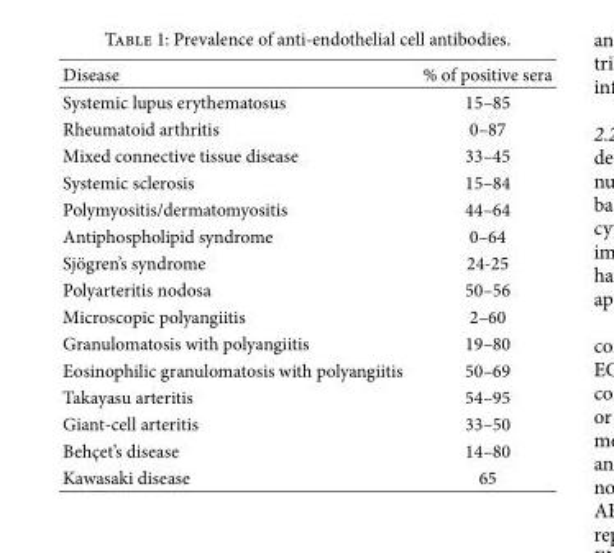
<table><thead><tr><td>Disease</td><td>% of positive sera</td></tr></thead><tbody><tr><td>Systemic lupus erythematosus</td><td>15–85</td></tr><tr><td>Rheumatoid arthritis</td><td>0–87</td></tr><tr><td>Mixed connective tissue disease</td><td>33–45</td></tr><tr><td>Systemic sclerosis</td><td>15–84</td></tr><tr><td>Polymyositis/dermatomyositis</td><td>44–64</td></tr><tr><td>Antiphospholipid syndrome</td><td>0–64</td></tr><tr><td>Sjögren’s syndrome</td><td>24-25</td></tr><tr><td>Polyarteritis nodosa</td><td>50–56</td></tr><tr><td>Microscopic polyangiitis</td><td>2–60</td></tr><tr><td>Granulomatosis with polyangiitis</td><td>19–80</td></tr><tr><td>Eosinophilic granulomatosis with polyangiitis</td><td>50–69</td></tr><tr><td>Takayasu arteritis</td><td>54–95</td></tr><tr><td>Giant-cell arteritis</td><td>33–50</td></tr><tr><td>Behçet’s disease</td><td>14–80</td></tr><tr><td>Kawasaki disease</td><td>65</td></tr></tbody></table>